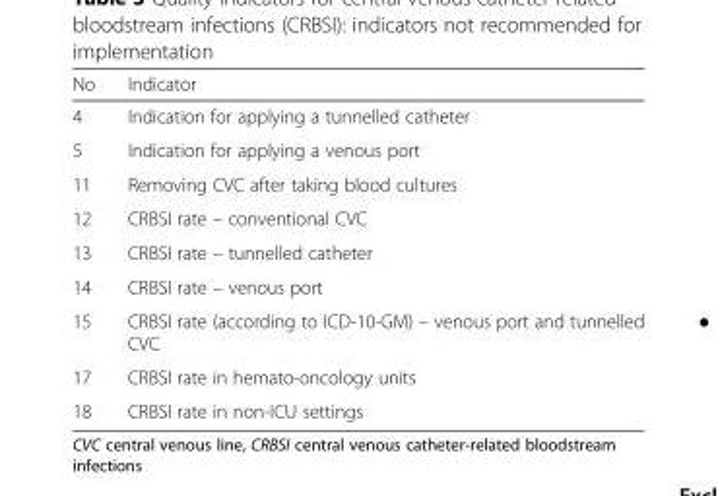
<table><thead><tr><td>No</td><td>Indicator</td></tr></thead><tbody><tr><td>4</td><td>Indication for applying a tunnelled catheter</td></tr><tr><td>5</td><td>Indication for applying a venous port</td></tr><tr><td>11</td><td>Removing CVC after taking blood cultures</td></tr><tr><td>12</td><td>CRBSI rate – conventional CVC</td></tr><tr><td>13</td><td>CRBSI rate – tunnelled catheter</td></tr><tr><td>14</td><td>CRBSI rate – venous port</td></tr><tr><td>15</td><td>CRBSI rate (according to ICD-10-GM) – venous port and tunnelled CVC</td></tr><tr><td>17</td><td>CRBSI rate in hemato-oncology units</td></tr><tr><td>18</td><td>CRBSI rate in non-ICU settings</td></tr></tbody></table>